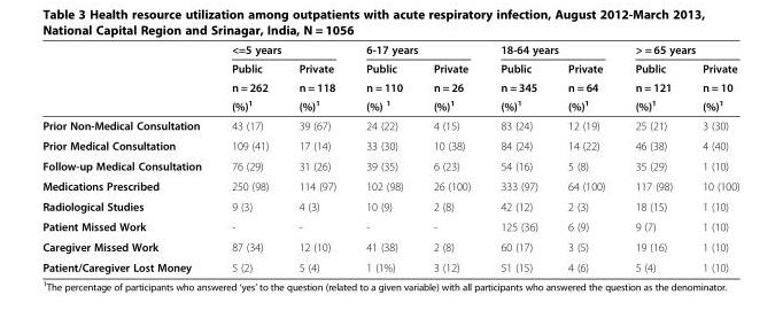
<table><thead><tr><td rowspan="4"></td><td colspan="2">&lt;=5 years</td><td colspan="2">6-17 years</td><td colspan="2">18-64 years</td><td colspan="2">&gt; = 65 years</td></tr><tr><td rowspan="3">Public n = 262 (%)<sup>1</sup></td><td rowspan="3">Private n = 118 (%)<sup>1</sup></td><td rowspan="3">Public n = 110 (%) <sup>1</sup></td><td rowspan="3">Private n = 26 (%)<sup>1</sup></td><td rowspan="3">Public n = 345 (%)<sup>1</sup></td><td rowspan="3">Private n = 64 (%)<sup>1</sup></td><td rowspan="3">Public n = 121 (%)<sup>1</sup></td><td rowspan="3">Private n = 10 (%)<sup>1</sup></td></tr><tr></tr><tr></tr></thead><tbody><tr><td>Prior Non-Medical Consultation</td><td>43 (17)</td><td>39 (67)</td><td>24 (22)</td><td>4 (15)</td><td>83 (24)</td><td>12 (19)</td><td>25 (21)</td><td>3 (30)</td></tr><tr><td>Prior Medical Consultation</td><td>109 (41)</td><td>17 (14)</td><td>33 (30)</td><td>10 (38)</td><td>84 (24)</td><td>14 (22)</td><td>46 (38)</td><td>4 (40)</td></tr><tr><td>Follow-up Medical Consultation</td><td>76 (29)</td><td>31 (26)</td><td>39 (35)</td><td>6 (23)</td><td>54 (16)</td><td>5 (8)</td><td>35 (29)</td><td>1 (10)</td></tr><tr><td>Medications Prescribed</td><td>250 (98)</td><td>114 (97)</td><td>102 (98)</td><td>26 (100)</td><td>333 (97)</td><td>64 (100)</td><td>117 (98)</td><td>10 (100)</td></tr><tr><td>Radiological Studies</td><td>9 (3)</td><td>4 (3)</td><td>10 (9)</td><td>2 (8)</td><td>42 (12)</td><td>2 (3)</td><td>18 (15)</td><td>1 (10)</td></tr><tr><td>Patient Missed Work</td><td>-</td><td>-</td><td>-</td><td>-</td><td>125 (36)</td><td>6 (9)</td><td>9 (7)</td><td>1 (10)</td></tr><tr><td>Caregiver Missed Work</td><td>87 (34)</td><td>12 (10)</td><td>41 (38)</td><td>2 (8)</td><td>60 (17)</td><td>3 (5)</td><td>19 (16)</td><td>1 (10)</td></tr><tr><td>Patient/Caregiver Lost Money</td><td>5 (2)</td><td>5 (4)</td><td>1 (1%)</td><td>3 (12)</td><td>51 (15)</td><td>4 (6)</td><td>5 (4)</td><td>1 (10)</td></tr></tbody></table>